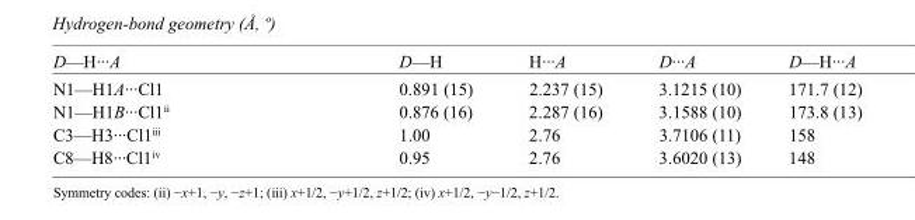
<table><tbody><tr><td>D—H···A</td><td>D—H</td><td>H···A</td><td>D···A</td><td>D—H···A</td></tr><tr><td>N1—H1A···Cl1</td><td>0.891 (15)</td><td>2.237 (15)</td><td>3.1215 (10)</td><td>171.7 (12)</td></tr><tr><td>N1—H1B···Cl1<sup>ii</sup></td><td>0.876 (16)</td><td>2.287 (16)</td><td>3.1588 (10)</td><td>173.8 (13)</td></tr><tr><td>C3—H3···Cl1<sup>iii</sup></td><td>1.00</td><td>2.76</td><td>3.7106 (11)</td><td>158</td></tr><tr><td>C8—H8···Cl1<sup>iv</sup></td><td>0.95</td><td>2.76</td><td>3.6020 (13)</td><td>148</td></tr></tbody></table>